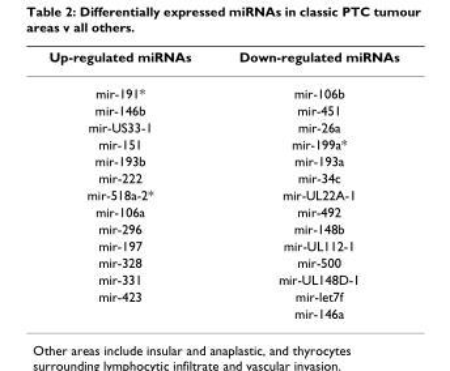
<table><thead><tr><td>Up-regulated miRNAs</td><td>Down-regulated miRNAs</td></tr></thead><tbody><tr><td>mir-191*</td><td>mir-106b</td></tr><tr><td>mir-146b</td><td>mir-451</td></tr><tr><td>mir-US33-1</td><td>mir-26a</td></tr><tr><td>mir-151</td><td>mir-199a*</td></tr><tr><td>mir-193b</td><td>mir-193a</td></tr><tr><td>mir-222</td><td>mir-34c</td></tr><tr><td>mir-518a-2*</td><td>mir-UL22A-1</td></tr><tr><td>mir-106a</td><td>mir-492</td></tr><tr><td>mir-296</td><td>mir-148b</td></tr><tr><td>mir-197</td><td>mir-UL112-1</td></tr><tr><td>mir-328</td><td>mir-500</td></tr><tr><td>mir-331</td><td>mir-UL148D-1</td></tr><tr><td rowspan="2">mir-423</td><td>mir-let7f</td></tr><tr><td>mir-146a</td></tr></tbody></table>